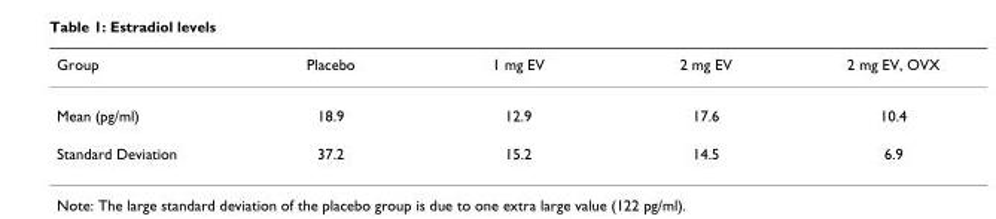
<table><thead><tr><td>Group</td><td>Placebo</td><td>1 mg EV</td><td>2 mg EV</td><td>2 mg EV, OVX</td></tr></thead><tbody><tr><td>Mean (pg/ml)</td><td>18.9</td><td>12.9</td><td>17.6</td><td>10.4</td></tr><tr><td>Standard Deviation</td><td>37.2</td><td>15.2</td><td>14.5</td><td>6.9</td></tr></tbody></table>